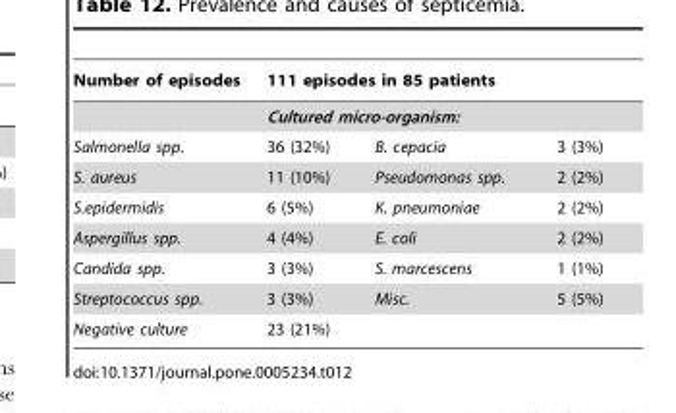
<table><thead><tr><td rowspan="3">Number of episodes Salmonella spp.</td><td rowspan="2" colspan="3">111 episodes in 85 patients Cultured micro-organism:</td></tr><tr></tr><tr><td>36 (32%)</td><td>B. cepacia</td><td>3 (3%)</td></tr></thead><tbody><tr><td>S. aureus</td><td>11 (10%)</td><td>Pseudomonas spp.</td><td>2 (2%)</td></tr><tr><td>S.epidermidis</td><td>6 (5%)</td><td>K. pneumoniae</td><td>2 (2%)</td></tr><tr><td>Aspergillus spp.</td><td>4 (4%)</td><td>E. coli</td><td>2 (2%)</td></tr><tr><td>Candida spp.</td><td>3 (3%)</td><td>S. marcescens</td><td>1 (1%)</td></tr><tr><td>Streptococcus spp.</td><td>3 (3%)</td><td>Misc.</td><td>5 (5%)</td></tr><tr><td>Negative culture</td><td>23 (21%)</td><td></td><td></td></tr></tbody></table>